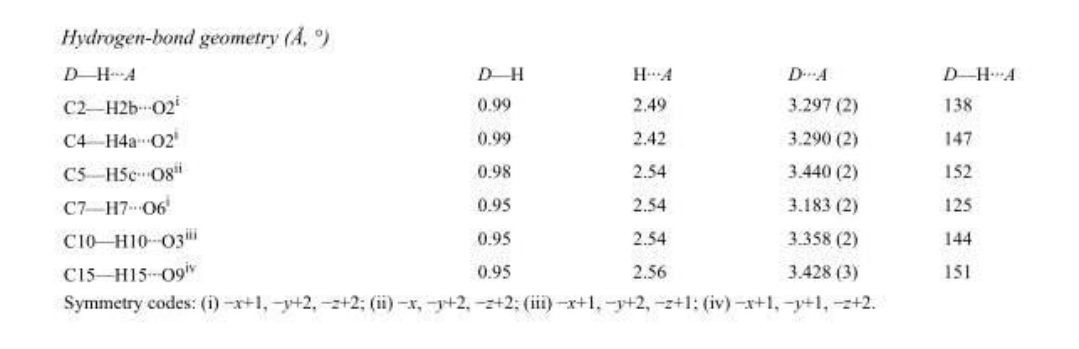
<table><tbody><tr><td>D—H···A</td><td>D—H</td><td>H···A</td><td>D···A</td><td>D—H···A</td></tr><tr><td>C2—H2b···O2<sup>i</sup></td><td>0.99</td><td>2.49</td><td>3.297 (2)</td><td>138</td></tr><tr><td>C4—H4a···O2<sup>i</sup></td><td>0.99</td><td>2.42</td><td>3.290 (2)</td><td>147</td></tr><tr><td>C5—H5c···O8<sup>ii</sup></td><td>0.98</td><td>2.54</td><td>3.440 (2)</td><td>152</td></tr><tr><td>C7—H7···O6<sup>i</sup></td><td>0.95</td><td>2.54</td><td>3.183 (2)</td><td>125</td></tr><tr><td>C10—H10···O3<sup>iii</sup></td><td>0.95</td><td>2.54</td><td>3.358 (2)</td><td>144</td></tr><tr><td>C15—H15···O9<sup>iv</sup></td><td>0.95</td><td>2.56</td><td>3.428 (3)</td><td>151</td></tr></tbody></table>